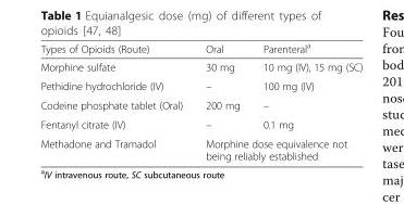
<table><thead><tr><td>Types of Opioids (Route)</td><td>Oral</td><td>Parenteral<sup>a</sup></td></tr></thead><tbody><tr><td>Morphine sulfate</td><td>30 mg</td><td>10 mg (IV), 15 mg (SC)</td></tr><tr><td>Pethidine hydrochloride (IV)</td><td>–</td><td>100 mg (IV)</td></tr><tr><td>Codeine phosphate tablet (Oral)</td><td>200 mg</td><td>–</td></tr><tr><td>Fentanyl citrate (IV)</td><td>–</td><td>0.1 mg</td></tr><tr><td>Methadone and Tramadol</td><td colspan="2">Morphine dose equivalence not being reliably established</td></tr></tbody></table>